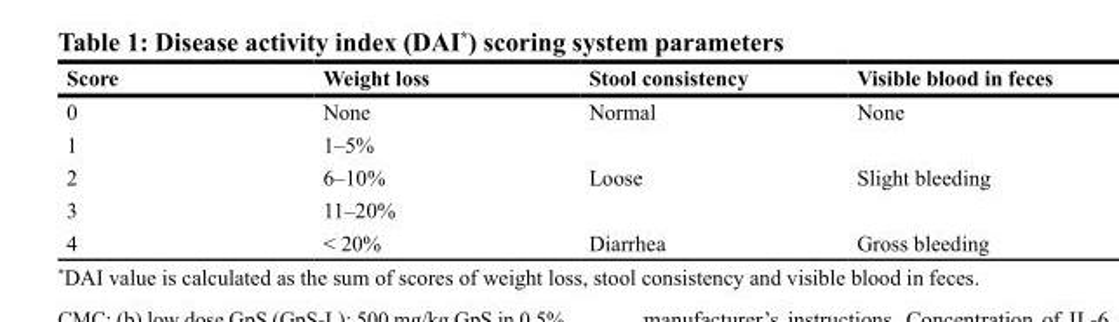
<table><thead><tr><td>Score</td><td>Weight loss</td><td>Stool consistency</td><td>Visible blood in feces</td></tr></thead><tbody><tr><td>0</td><td>None</td><td>Normal</td><td>None</td></tr><tr><td>1</td><td>1–5%</td><td></td><td></td></tr><tr><td>2</td><td>6–10%</td><td>Loose</td><td>Slight bleeding</td></tr><tr><td>3</td><td>11–20%</td><td></td><td></td></tr><tr><td>4</td><td>&lt; 20%</td><td>Diarrhea</td><td>Gross bleeding</td></tr></tbody></table>